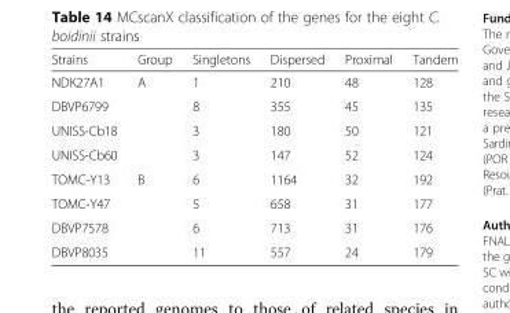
<table><thead><tr><td>Strains</td><td>Group</td><td>Singletons</td><td>Dispersed</td><td>Proximal</td><td>Tandem</td></tr></thead><tbody><tr><td>NDK27A1</td><td rowspan="4">A</td><td>1</td><td>210</td><td>48</td><td>128</td></tr><tr><td>DBVP6799</td><td>8</td><td>355</td><td>45</td><td>135</td></tr><tr><td>UNISS-Cb18</td><td>3</td><td>180</td><td>50</td><td>121</td></tr><tr><td>UNISS-Cb60</td><td>3</td><td>147</td><td>52</td><td>124</td></tr><tr><td>TOMC-Y13</td><td rowspan="4">B</td><td>6</td><td>1164</td><td>32</td><td>192</td></tr><tr><td>TOMC-Y47</td><td>5</td><td>658</td><td>31</td><td>177</td></tr><tr><td>DBVP7578</td><td>6</td><td>713</td><td>31</td><td>176</td></tr><tr><td>DBVP8035</td><td>11</td><td>557</td><td>24</td><td>179</td></tr></tbody></table>